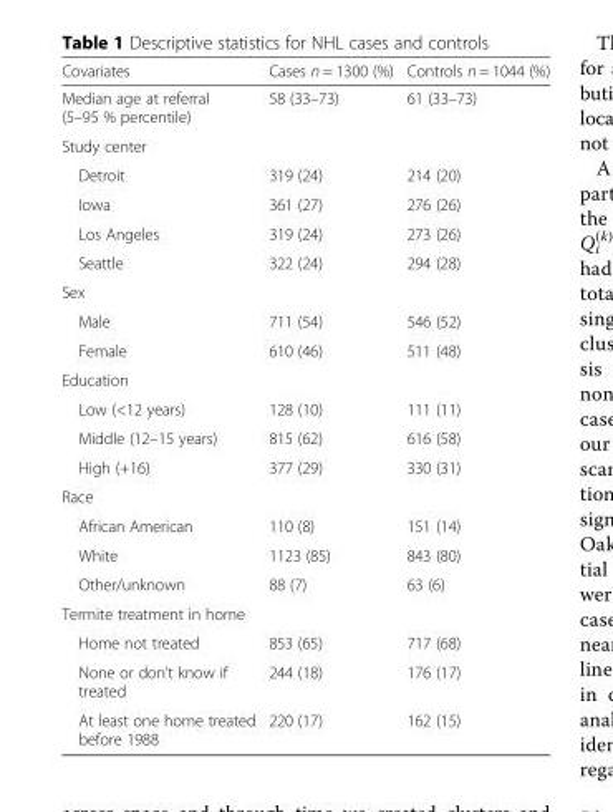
<table><thead><tr><td>Covariates</td><td>Cases n = 1300 (%)</td><td>Controls n = 1044 (%)</td></tr></thead><tbody><tr><td>Median age at referral (5–95 % percentile)</td><td>58 (33–73)</td><td>61 (33–73)</td></tr><tr><td colspan="3">Study center</td></tr><tr><td>Detroit</td><td>319 (24)</td><td>214 (20)</td></tr><tr><td>Iowa</td><td>361 (27)</td><td>276 (26)</td></tr><tr><td>Los Angeles</td><td>319 (24)</td><td>273 (26)</td></tr><tr><td>Seattle</td><td>322 (24)</td><td>294 (28)</td></tr><tr><td colspan="3">Sex</td></tr><tr><td>Male</td><td>711 (54)</td><td>546 (52)</td></tr><tr><td>Female</td><td>610 (46)</td><td>511 (48)</td></tr><tr><td colspan="3">Education</td></tr><tr><td>Low (&lt;12 years)</td><td>128 (10)</td><td>111 (11)</td></tr><tr><td>Middle (12–15 years)</td><td>815 (62)</td><td>616 (58)</td></tr><tr><td>High (+16)</td><td>377 (29)</td><td>330 (31)</td></tr><tr><td colspan="3">Race</td></tr><tr><td>African American</td><td>110 (8)</td><td>151 (14)</td></tr><tr><td>White</td><td>1123 (85)</td><td>843 (80)</td></tr><tr><td>Other/unknown</td><td>88 (7)</td><td>63 (6)</td></tr><tr><td colspan="3">Termite treatment in home</td></tr><tr><td>Home not treated</td><td>853 (65)</td><td>717 (68)</td></tr><tr><td>None or don’t know if treated</td><td>244 (18)</td><td>176 (17)</td></tr><tr><td>At least one home treated before 1988</td><td>220 (17)</td><td>162 (15)</td></tr></tbody></table>